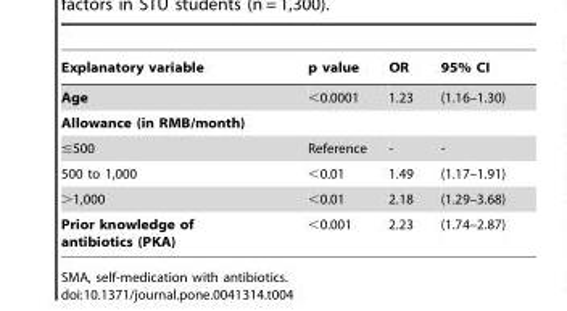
<table><thead><tr><td>Explanatory variable</td><td>p value</td><td>OR</td><td>95% CI</td></tr></thead><tbody><tr><td>Age</td><td>&lt;0.0001</td><td>1.23</td><td>(1.16–1.30)</td></tr><tr><td colspan="4">Allowance (in RMB/month)</td></tr><tr><td>≤500</td><td>Reference</td><td>-</td><td>-</td></tr><tr><td>500 to 1,000</td><td>&lt;0.01</td><td>1.49</td><td>(1.17–1.91)</td></tr><tr><td>&gt;1,000</td><td>&lt;0.01</td><td>2.18</td><td>(1.29–3.68)</td></tr><tr><td>Prior knowledge of antibiotics (PKA)</td><td>&lt;0.001</td><td>2.23</td><td>(1.74–2.87)</td></tr></tbody></table>